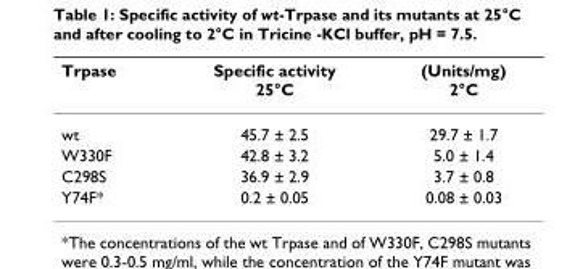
<table><thead><tr><td>Trpase</td><td>Specific activity 25°C</td><td>(Units/mg) 2°C</td></tr></thead><tbody><tr><td>wt</td><td>45.7 ± 2.5</td><td>29.7 ± 1.7</td></tr><tr><td>W330F</td><td>42.8 ± 3.2</td><td>5.0 ± 1.4</td></tr><tr><td>C298S</td><td>36.9 ± 2.9</td><td>3.7 ± 0.8</td></tr><tr><td>Y74F*</td><td>0.2 ± 0.05</td><td>0.08 ± 0.03</td></tr></tbody></table>